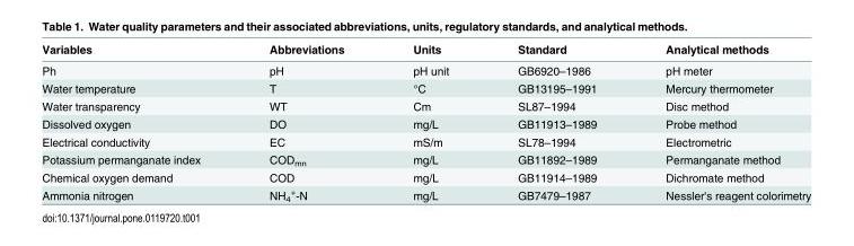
<table><thead><tr><td>Variables</td><td>Abbreviations</td><td>Units</td><td>Standard</td><td>Analytical methods</td></tr></thead><tbody><tr><td>Ph</td><td>pH</td><td>pH unit</td><td>GB6920–1986</td><td>pH meter</td></tr><tr><td>Water temperature</td><td>T</td><td>°C</td><td>GB13195–1991</td><td>Mercury thermometer</td></tr><tr><td>Water transparency</td><td>WT</td><td>Cm</td><td>SL87–1994</td><td>Disc method</td></tr><tr><td>Dissolved oxygen</td><td>DO</td><td>mg/L</td><td>GB11913–1989</td><td>Probe method</td></tr><tr><td>Electrical conductivity</td><td>EC</td><td>mS/m</td><td>SL78–1994</td><td>Electrometric</td></tr><tr><td>Potassium permanganate index</td><td>COD<sub>mn</sub></td><td>mg/L</td><td>GB11892–1989</td><td>Permanganate method</td></tr><tr><td>Chemical oxygen demand</td><td>COD</td><td>mg/L</td><td>GB11914–1989</td><td>Dichromate method</td></tr><tr><td>Ammonia nitrogen</td><td>NH<sub>4</sub> <sup>+</sup>-N</td><td>mg/L</td><td>GB7479–1987</td><td>Nessler&#x27;s reagent colorimetry</td></tr></tbody></table>